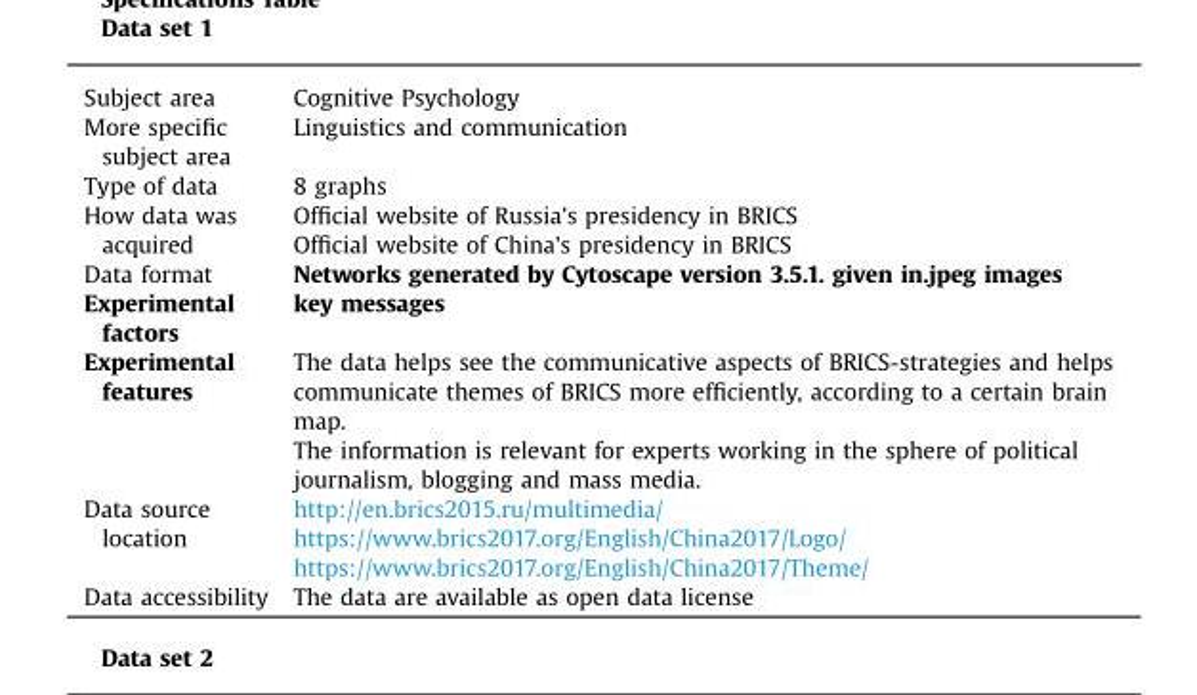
<table><tbody><tr><td>Subject area</td><td>Cognitive Psychology</td></tr><tr><td>More specific subject area</td><td>Linguistics and communication</td></tr><tr><td>Type of data</td><td>8 graphs</td></tr><tr><td rowspan="2">How data was acquired</td><td>Official website of Russia&#x27;s presidency in BRICS</td></tr><tr><td>Official website of China&#x27;s presidency in BRICS</td></tr><tr><td>Data format</td><td>Networks generated by Cytoscape version 3.5.1. given in.jpeg images</td></tr><tr><td>Experimental factors</td><td>key messages</td></tr><tr><td rowspan="2">Experimental features</td><td>The data helps see the communicative aspects of BRICS-strategies and helps communicate themes of BRICS more efficiently, according to a certain brain map.</td></tr><tr><td>The information is relevant for experts working in the sphere of political journalism, blogging and mass media.</td></tr><tr><td rowspan="3">Data source location</td><td>http://en.brics2015.ru/multimedia/</td></tr><tr><td>https://www.brics2017.org/English/China2017/Logo/</td></tr><tr><td>https://www.brics2017.org/English/China2017/Theme/</td></tr><tr><td>Data accessibility</td><td>The data are available as open data license</td></tr></tbody></table>